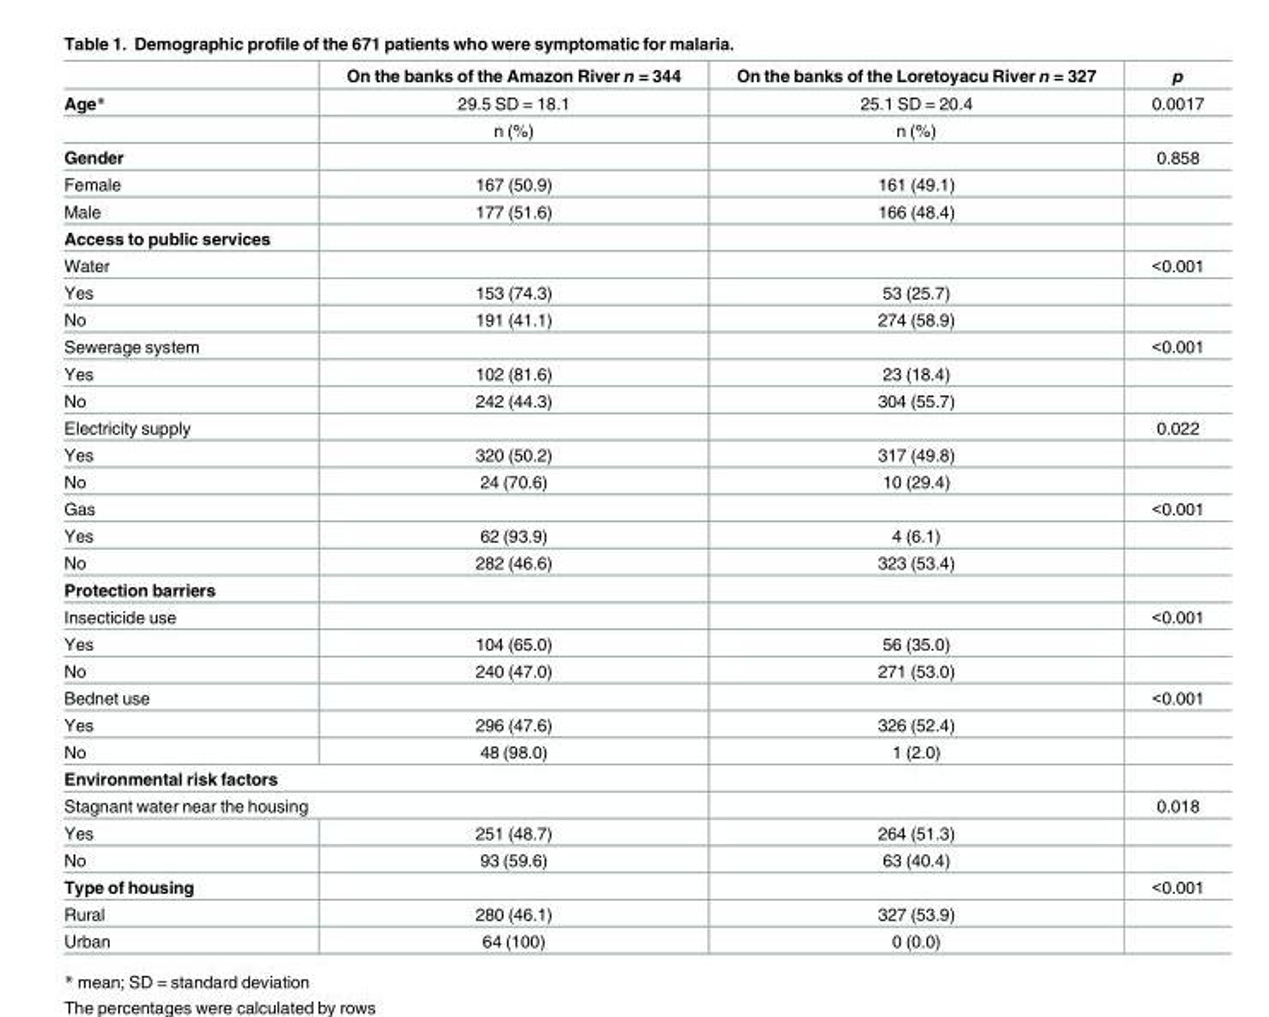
<table><thead><tr><td></td><td>On the banks of the Amazon River n = 344</td><td>On the banks of the Loretoyacu River n = 327</td><td>p</td></tr></thead><tbody><tr><td rowspan="2">Age*</td><td>29.5 SD = 18.1</td><td>25.1 SD = 20.4</td><td>0.0017</td></tr><tr><td>n (%)</td><td>n (%)</td><td></td></tr><tr><td>Gender</td><td></td><td></td><td>0.858</td></tr><tr><td>Female</td><td>167 (50.9)</td><td>161 (49.1)</td><td></td></tr><tr><td>Male</td><td>177 (51.6)</td><td>166 (48.4)</td><td></td></tr><tr><td colspan="4">Access to public services</td></tr><tr><td>Water</td><td></td><td></td><td>&lt;0.001</td></tr><tr><td>Yes</td><td>153 (74.3)</td><td>53 (25.7)</td><td></td></tr><tr><td>No</td><td>191 (41.1)</td><td>274 (58.9)</td><td></td></tr><tr><td>Sewerage system</td><td></td><td></td><td>&lt;0.001</td></tr><tr><td>Yes</td><td>102 (81.6)</td><td>23 (18.4)</td><td></td></tr><tr><td>No</td><td>242 (44.3)</td><td>304 (55.7)</td><td></td></tr><tr><td>Electricity supply</td><td></td><td></td><td>0.022</td></tr><tr><td>Yes</td><td>320 (50.2)</td><td>317 (49.8)</td><td></td></tr><tr><td>No</td><td>24 (70.6)</td><td>10 (29.4)</td><td></td></tr><tr><td>Gas</td><td></td><td></td><td>&lt;0.001</td></tr><tr><td>Yes</td><td>62 (93.9)</td><td>4 (6.1)</td><td></td></tr><tr><td>No</td><td>282 (46.6)</td><td>323 (53.4)</td><td></td></tr><tr><td colspan="4">Protection barriers</td></tr><tr><td>Insecticide use</td><td></td><td></td><td>&lt;0.001</td></tr><tr><td>Yes</td><td>104 (65.0)</td><td>56 (35.0)</td><td></td></tr><tr><td>No</td><td>240 (47.0)</td><td>271 (53.0)</td><td></td></tr><tr><td>Bednet use</td><td></td><td></td><td>&lt;0.001</td></tr><tr><td>Yes</td><td>296 (47.6)</td><td>326 (52.4)</td><td></td></tr><tr><td>No</td><td>48 (98.0)</td><td>1 (2.0)</td><td></td></tr><tr><td colspan="4">Environmental risk factors</td></tr><tr><td colspan="2">Stagnant water near the housing</td><td></td><td>0.018</td></tr><tr><td>Yes</td><td>251 (48.7)</td><td>264 (51.3)</td><td></td></tr><tr><td>No</td><td>93 (59.6)</td><td>63 (40.4)</td><td></td></tr><tr><td>Type of housing</td><td></td><td></td><td>&lt;0.001</td></tr><tr><td>Rural</td><td>280 (46.1)</td><td>327 (53.9)</td><td></td></tr><tr><td>Urban</td><td>64 (100)</td><td>0 (0.0)</td><td></td></tr></tbody></table>